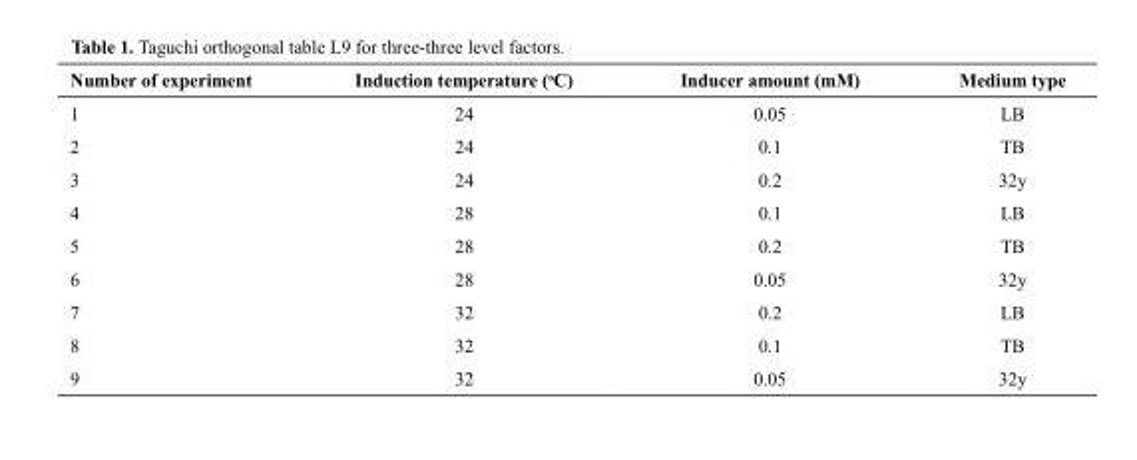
<table><thead><tr><td>Medium type</td><td>Inducer amount (mM)</td><td>Induction temperature (<sup>o</sup>C)</td><td>Number of experiment</td></tr></thead><tbody><tr><td>LB</td><td>0.05</td><td>24</td><td>1</td></tr><tr><td>TB</td><td>0.1</td><td>24</td><td>2</td></tr><tr><td>32y</td><td>0.2</td><td>24</td><td>3</td></tr><tr><td>LB</td><td>0.1</td><td>28</td><td>4</td></tr><tr><td>TB</td><td>0.2</td><td>28</td><td>5</td></tr><tr><td>32y</td><td>0.05</td><td>28</td><td>6</td></tr><tr><td>LB</td><td>0.2</td><td>32</td><td>7</td></tr><tr><td>TB</td><td>0.1</td><td>32</td><td>8</td></tr><tr><td>32y</td><td>0.05</td><td>32</td><td>9</td></tr></tbody></table>